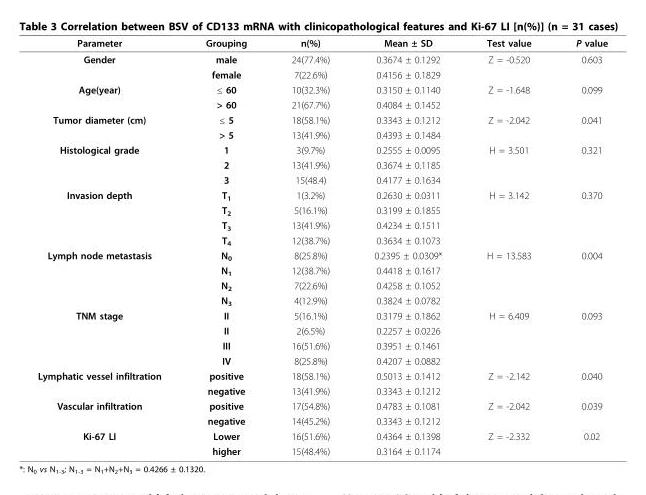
<table><thead><tr><td>Parameter</td><td>Grouping</td><td>n(%)</td><td>Mean ± SD</td><td>Test value</td><td>P value</td></tr></thead><tbody><tr><td rowspan="2">Gender</td><td>male</td><td>24(77.4%)</td><td>0.3674 ± 0.1292</td><td>Z = -0.520</td><td>0.603</td></tr><tr><td>female</td><td>7(22.6%)</td><td>0.4156 ± 0.1829</td><td></td><td></td></tr><tr><td rowspan="2">Age(year)</td><td>≤ 60</td><td>10(32.3%)</td><td>0.3150 ± 0.1140</td><td>Z = -1.648</td><td>0.099</td></tr><tr><td>&gt; 60</td><td>21(67.7%)</td><td>0.4084 ± 0.1452</td><td></td><td></td></tr><tr><td rowspan="2">Tumor diameter (cm)</td><td>≤ 5</td><td>18(58.1%)</td><td>0.3343 ± 0.1212</td><td>Z = -2.042</td><td>0.041</td></tr><tr><td>&gt; 5</td><td>13(41.9%)</td><td>0.4393 ± 0.1484</td><td></td><td></td></tr><tr><td rowspan="3">Histological grade</td><td>1</td><td>3(9.7%)</td><td>0.2555 ± 0.0095</td><td>H = 3.501</td><td>0.321</td></tr><tr><td>2</td><td>13(41.9%)</td><td>0.3674 ± 0.1185</td><td></td><td></td></tr><tr><td>3</td><td>15(48.4)</td><td>0.4177 ± 0.1634</td><td></td><td></td></tr><tr><td rowspan="4">Invasion depth</td><td>T<sub>1</sub></td><td>1(3.2%)</td><td>0.2630 ± 0.0311</td><td>H = 3.142</td><td>0.370</td></tr><tr><td>T<sub>2</sub></td><td>5(16.1%)</td><td>0.3199 ± 0.1855</td><td></td><td></td></tr><tr><td>T<sub>3</sub></td><td>13(41.9%)</td><td>0.4234 ± 0.1511</td><td></td><td></td></tr><tr><td>T<sub>4</sub></td><td>12(38.7%)</td><td>0.3634 ± 0.1073</td><td></td><td></td></tr><tr><td rowspan="4">Lymph node metastasis</td><td>N<sub>0</sub></td><td>8(25.8%)</td><td>0.2395 ± 0.0309*</td><td>H = 13.583</td><td>0.004</td></tr><tr><td>N<sub>1</sub></td><td>12(38.7%)</td><td>0.4418 ± 0.1617</td><td></td><td></td></tr><tr><td>N<sub>2</sub></td><td>7(22.6%)</td><td>0.4258 ± 0.1052</td><td></td><td></td></tr><tr><td>N<sub>3</sub></td><td>4(12.9%)</td><td>0.3824 ± 0.0782</td><td></td><td></td></tr><tr><td rowspan="4">TNM stage</td><td>II</td><td>5(16.1%)</td><td>0.3179 ± 0.1862</td><td>H = 6.409</td><td>0.093</td></tr><tr><td>II</td><td>2(6.5%)</td><td>0.2257 ± 0.0226</td><td></td><td></td></tr><tr><td>III</td><td>16(51.6%)</td><td>0.3951 ± 0.1461</td><td></td><td></td></tr><tr><td>IV</td><td>8(25.8%)</td><td>0.4207 ± 0.0882</td><td></td><td></td></tr><tr><td rowspan="2">Lymphatic vessel infiltration</td><td>positive</td><td>18(58.1%)</td><td>0.5013 ± 0.1412</td><td>Z = -2.142</td><td>0.040</td></tr><tr><td>negative</td><td>13(41.9%)</td><td>0.3343 ± 0.1212</td><td></td><td></td></tr><tr><td rowspan="2">Vascular infiltration</td><td>positive</td><td>17(54.8%)</td><td>0.4783 ± 0.1081</td><td>Z = -2.042</td><td>0.039</td></tr><tr><td>negative</td><td>14(45.2%)</td><td>0.3343 ± 0.1212</td><td></td><td></td></tr><tr><td rowspan="2">Ki-67 LI</td><td>Lower</td><td>16(51.6%)</td><td>0.4364 ± 0.1398</td><td>Z = -2.332</td><td>0.02</td></tr><tr><td>higher</td><td>15(48.4%)</td><td>0.3164 ± 0.1174</td><td></td><td></td></tr></tbody></table>